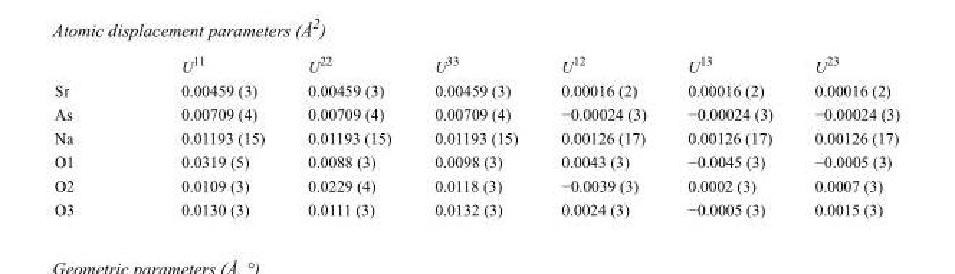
<table><thead><tr><td></td><td>U<sup>11</sup></td><td>U<sup>22</sup></td><td>U<sup>33</sup></td><td>U<sup>12</sup></td><td>U<sup>13</sup></td><td>U<sup>23</sup></td></tr></thead><tbody><tr><td>Sr</td><td>0.00459 (3)</td><td>0.00459 (3)</td><td>0.00459 (3)</td><td>0.00016 (2)</td><td>0.00016 (2)</td><td>0.00016 (2)</td></tr><tr><td>As</td><td>0.00709 (4)</td><td>0.00709 (4)</td><td>0.00709 (4)</td><td>−0.00024 (3)</td><td>−0.00024 (3)</td><td>−0.00024 (3)</td></tr><tr><td>Na</td><td>0.01193 (15)</td><td>0.01193 (15)</td><td>0.01193 (15)</td><td>0.00126 (17)</td><td>0.00126 (17)</td><td>0.00126 (17)</td></tr><tr><td>O1</td><td>0.0319 (5)</td><td>0.0088 (3)</td><td>0.0098 (3)</td><td>0.0043 (3)</td><td>−0.0045 (3)</td><td>−0.0005 (3)</td></tr><tr><td>O2</td><td>0.0109 (3)</td><td>0.0229 (4)</td><td>0.0118 (3)</td><td>−0.0039 (3)</td><td>0.0002 (3)</td><td>0.0007 (3)</td></tr><tr><td>O3</td><td>0.0130 (3)</td><td>0.0111 (3)</td><td>0.0132 (3)</td><td>0.0024 (3)</td><td>−0.0005 (3)</td><td>0.0015 (3)</td></tr></tbody></table>